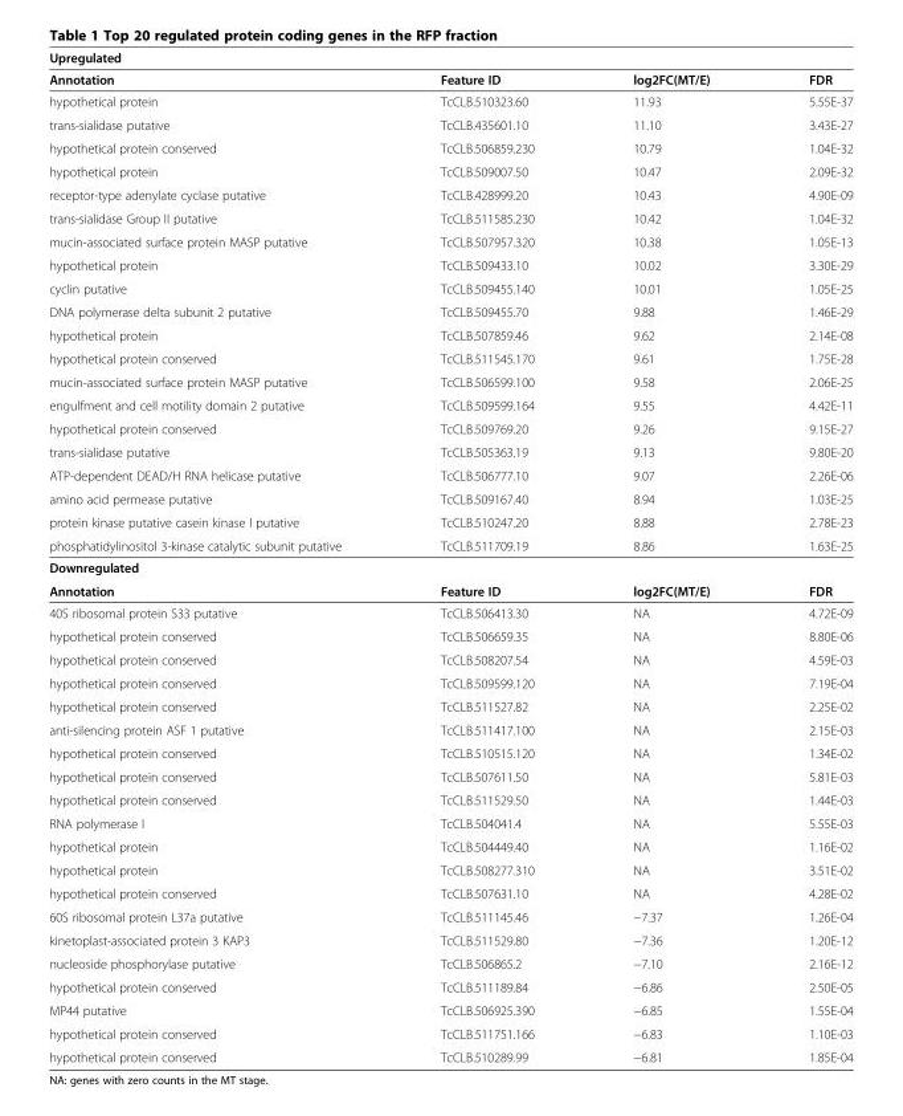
<table><thead><tr><td colspan="4">Upregulated</td></tr><tr><td>Annotation</td><td>Feature ID</td><td>log2FC(MT/E)</td><td>FDR</td></tr></thead><tbody><tr><td>hypothetical protein</td><td>TcCLB.510323.60</td><td>11.93</td><td>5.55E-37</td></tr><tr><td>trans-sialidase putative</td><td>TcCLB.435601.10</td><td>11.10</td><td>3.43E-27</td></tr><tr><td>hypothetical protein conserved</td><td>TcCLB.506859.230</td><td>10.79</td><td>1.04E-32</td></tr><tr><td>hypothetical protein</td><td>TcCLB.509007.50</td><td>10.47</td><td>2.09E-32</td></tr><tr><td>receptor-type adenylate cyclase putative</td><td>TcCLB.428999.20</td><td>10.43</td><td>4.90E-09</td></tr><tr><td>trans-sialidase Group II putative</td><td>TcCLB.511585.230</td><td>10.42</td><td>1.04E-32</td></tr><tr><td>mucin-associated surface protein MASP putative</td><td>TcCLB.507957.320</td><td>10.38</td><td>1.05E-13</td></tr><tr><td>hypothetical protein</td><td>TcCLB.509433.10</td><td>10.02</td><td>3.30E-29</td></tr><tr><td>cyclin putative</td><td>TcCLB.509455.140</td><td>10.01</td><td>1.05E-25</td></tr><tr><td>DNA polymerase delta subunit 2 putative</td><td>TcCLB.509455.70</td><td>9.88</td><td>1.46E-29</td></tr><tr><td>hypothetical protein</td><td>TcCLB.507859.46</td><td>9.62</td><td>2.14E-08</td></tr><tr><td>hypothetical protein conserved</td><td>TcCLB.511545.170</td><td>9.61</td><td>1.75E-28</td></tr><tr><td>mucin-associated surface protein MASP putative</td><td>TcCLB.506599.100</td><td>9.58</td><td>2.06E-25</td></tr><tr><td>engulfment and cell motility domain 2 putative</td><td>TcCLB.509599.164</td><td>9.55</td><td>4.42E-11</td></tr><tr><td>hypothetical protein conserved</td><td>TcCLB.509769.20</td><td>9.26</td><td>9.15E-27</td></tr><tr><td>trans-sialidase putative</td><td>TcCLB.505363.19</td><td>9.13</td><td>9.80E-20</td></tr><tr><td>ATP-dependent DEAD/H RNA helicase putative</td><td>TcCLB.506777.10</td><td>9.07</td><td>2.26E-06</td></tr><tr><td>amino acid permease putative</td><td>TcCLB.509167.40</td><td>8.94</td><td>1.03E-25</td></tr><tr><td>protein kinase putative casein kinase I putative</td><td>TcCLB.510247.20</td><td>8.88</td><td>2.78E-23</td></tr><tr><td>phosphatidylinositol 3-kinase catalytic subunit putative</td><td>TcCLB.511709.19</td><td>8.86</td><td>1.63E-25</td></tr><tr><td colspan="4">Downregulated</td></tr><tr><td>Annotation</td><td>Feature ID</td><td>log2FC(MT/E)</td><td>FDR</td></tr><tr><td>40S ribosomal protein S33 putative</td><td>TcCLB.506413.30</td><td>NA</td><td>4.72E-09</td></tr><tr><td>hypothetical protein conserved</td><td>TcCLB.506659.35</td><td>NA</td><td>8.80E-06</td></tr><tr><td>hypothetical protein conserved</td><td>TcCLB.508207.54</td><td>NA</td><td>4.59E-03</td></tr><tr><td>hypothetical protein conserved</td><td>TcCLB.509599.120</td><td>NA</td><td>7.19E-04</td></tr><tr><td>hypothetical protein conserved</td><td>TcCLB.511527.82</td><td>NA</td><td>2.25E-02</td></tr><tr><td>anti-silencing protein ASF 1 putative</td><td>TcCLB.511417.100</td><td>NA</td><td>2.15E-03</td></tr><tr><td>hypothetical protein conserved</td><td>TcCLB.510515.120</td><td>NA</td><td>1.34E-02</td></tr><tr><td>hypothetical protein conserved</td><td>TcCLB.507611.50</td><td>NA</td><td>5.81E-03</td></tr><tr><td>hypothetical protein conserved</td><td>TcCLB.511529.50</td><td>NA</td><td>1.44E-03</td></tr><tr><td>RNA polymerase I</td><td>TcCLB.504041.4</td><td>NA</td><td>5.55E-03</td></tr><tr><td>hypothetical protein</td><td>TcCLB.504449.40</td><td>NA</td><td>1.16E-02</td></tr><tr><td>hypothetical protein</td><td>TcCLB.508277.310</td><td>NA</td><td>3.51E-02</td></tr><tr><td>hypothetical protein conserved</td><td>TcCLB.507631.10</td><td>NA</td><td>4.28E-02</td></tr><tr><td>60S ribosomal protein L37a putative</td><td>TcCLB.511145.46</td><td>−7.37</td><td>1.26E-04</td></tr><tr><td>kinetoplast-associated protein 3 KAP3</td><td>TcCLB.511529.80</td><td>−7.36</td><td>1.20E-12</td></tr><tr><td>nucleoside phosphorylase putative</td><td>TcCLB.506865.2</td><td>−7.10</td><td>2.16E-12</td></tr><tr><td>hypothetical protein conserved</td><td>TcCLB.511189.84</td><td>−6.86</td><td>2.50E-05</td></tr><tr><td>MP44 putative</td><td>TcCLB.506925.390</td><td>−6.85</td><td>1.55E-04</td></tr><tr><td>hypothetical protein conserved</td><td>TcCLB.511751.166</td><td>−6.83</td><td>1.10E-03</td></tr><tr><td>hypothetical protein conserved</td><td>TcCLB.510289.99</td><td>−6.81</td><td>1.85E-04</td></tr></tbody></table>